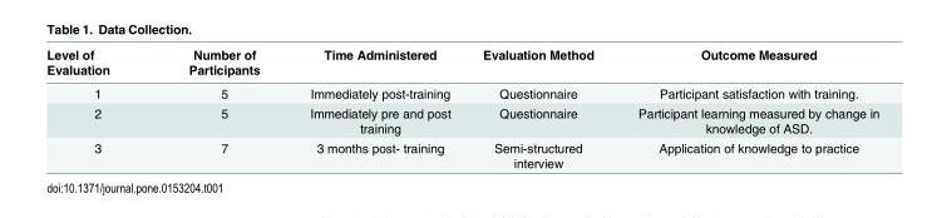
<table><thead><tr><td>Level of Evaluation</td><td>Number of Participants</td><td>Time Administered</td><td>Evaluation Method</td><td>Outcome Measured</td></tr></thead><tbody><tr><td>1</td><td>5</td><td>Immediately post-training</td><td>Questionnaire</td><td>Participant satisfaction with training.</td></tr><tr><td>2</td><td>5</td><td>Immediately pre and post training</td><td>Questionnaire</td><td>Participant learning measured by change in knowledge of ASD.</td></tr><tr><td>3</td><td>7</td><td>3 months post- training</td><td>Semi-structured interview</td><td>Application of knowledge to practice</td></tr></tbody></table>